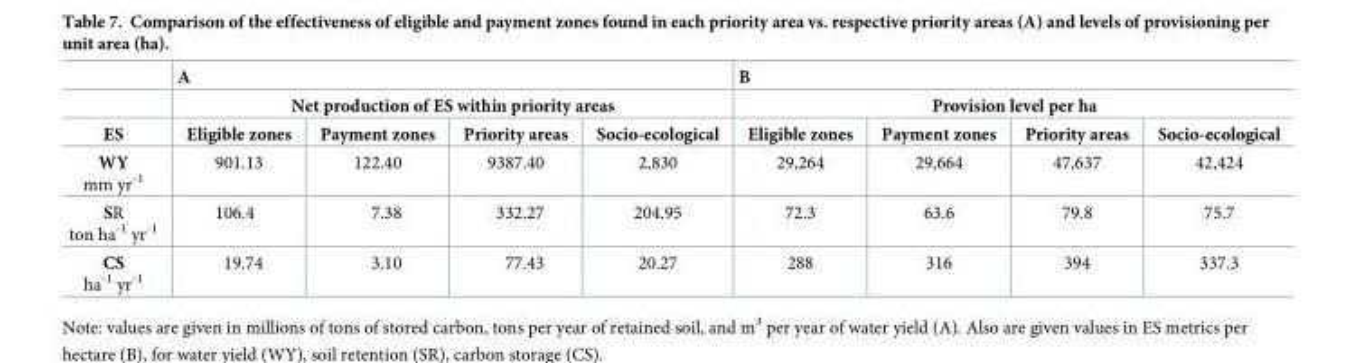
<table><thead><tr><td rowspan="3">ES</td><td rowspan="2" colspan="4">A Net production of ES within priority areas</td><td rowspan="2" colspan="4">B Provision level per ha</td></tr><tr></tr><tr><td>Eligible zones</td><td>Payment zones</td><td>Priority areas</td><td>Socio-ecological</td><td>Eligible zones</td><td>Payment zones</td><td>Priority areas</td><td>Socio-ecological</td></tr></thead><tbody><tr><td>WY mm yr<sup>-1</sup></td><td>901.13</td><td>122.40</td><td>9387.40</td><td>2,830</td><td>29,264</td><td>29,664</td><td>47,637</td><td>42,424</td></tr><tr><td>SR ton ha<sup>-1</sup> yr<sup>-1</sup></td><td>106.4</td><td>7.38</td><td>332.27</td><td>204.95</td><td>72.3</td><td>63.6</td><td>79.8</td><td>75.7</td></tr><tr><td>CS ha<sup>-1</sup> yr<sup>-1</sup></td><td>19.74</td><td>3.10</td><td>77.43</td><td>20.27</td><td>288</td><td>316</td><td>394</td><td>337.3</td></tr></tbody></table>